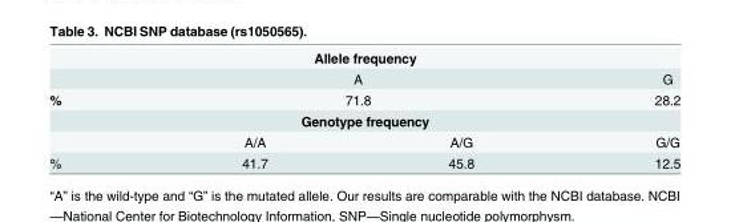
<table><tbody><tr><td colspan="4">Allele frequency</td></tr><tr><td></td><td colspan="2">A</td><td>G</td></tr><tr><td>%</td><td colspan="2">71.8</td><td>28.2</td></tr><tr><td colspan="4">Genotype frequency</td></tr><tr><td></td><td>A/A</td><td>A/G</td><td>G/G</td></tr><tr><td>%</td><td>41.7</td><td>45.8</td><td>12.5</td></tr></tbody></table>